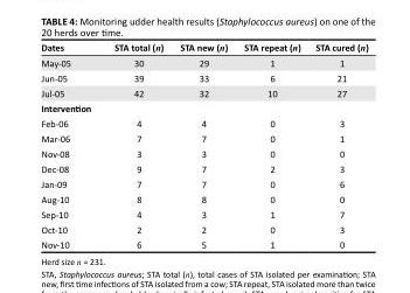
<table><thead><tr><td>Dates</td><td>STA total (n)</td><td>STA new (n)</td><td>STA repeat (n)</td><td>STA cured (n)</td></tr></thead><tbody><tr><td>May-05</td><td>30</td><td>29</td><td>1</td><td>1</td></tr><tr><td>Jun-05</td><td>39</td><td>33</td><td>6</td><td>21</td></tr><tr><td>Jul-05</td><td>42</td><td>32</td><td>10</td><td>27</td></tr><tr><td colspan="5">Intervention</td></tr><tr><td>Feb-06</td><td>4</td><td>4</td><td>0</td><td>3</td></tr><tr><td>Mar-06</td><td>7</td><td>7</td><td>0</td><td>1</td></tr><tr><td>Nov-08</td><td>3</td><td>3</td><td>0</td><td>0</td></tr><tr><td>Dec-08</td><td>9</td><td>7</td><td>2</td><td>3</td></tr><tr><td>Jan-09</td><td>7</td><td>7</td><td>0</td><td>6</td></tr><tr><td>Aug-10</td><td>8</td><td>8</td><td>0</td><td>0</td></tr><tr><td>Sep-10</td><td>4</td><td>3</td><td>1</td><td>7</td></tr><tr><td>Oct-10</td><td>2</td><td>2</td><td>0</td><td>3</td></tr><tr><td>Nov-10</td><td>6</td><td>5</td><td>1</td><td>0</td></tr></tbody></table>